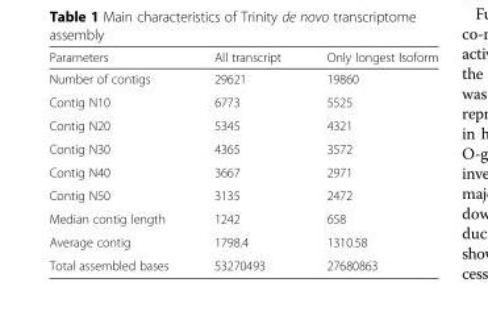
<table><thead><tr><td>Parameters</td><td>All transcript</td><td>Only longest Isoform</td></tr></thead><tbody><tr><td>Number of contigs</td><td>29621</td><td>19860</td></tr><tr><td>Contig N10</td><td>6773</td><td>5525</td></tr><tr><td>Contig N20</td><td>5345</td><td>4321</td></tr><tr><td>Contig N30</td><td>4365</td><td>3572</td></tr><tr><td>Contig N40</td><td>3667</td><td>2971</td></tr><tr><td>Contig N50</td><td>3135</td><td>2472</td></tr><tr><td>Median contig length</td><td>1242</td><td>658</td></tr><tr><td>Average contig</td><td>1798.4</td><td>1310.58</td></tr><tr><td>Total assembled bases</td><td>53270493</td><td>27680863</td></tr></tbody></table>